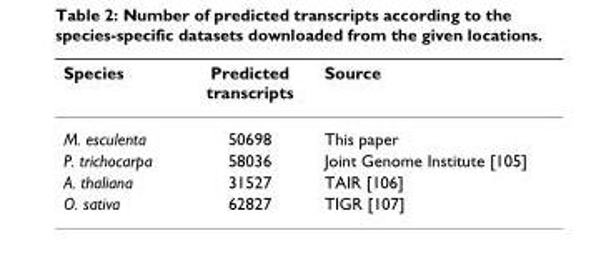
<table><thead><tr><td>Species</td><td>Predicted transcripts</td><td>Source</td></tr></thead><tbody><tr><td>M. esculenta</td><td>50698</td><td>This paper</td></tr><tr><td>P. trichocarpa</td><td>58036</td><td>Joint Genome Institute [105]</td></tr><tr><td>A. thaliana</td><td>31527</td><td>TAIR [106]</td></tr><tr><td>O. sativa</td><td>62827</td><td>TIGR [107]</td></tr></tbody></table>